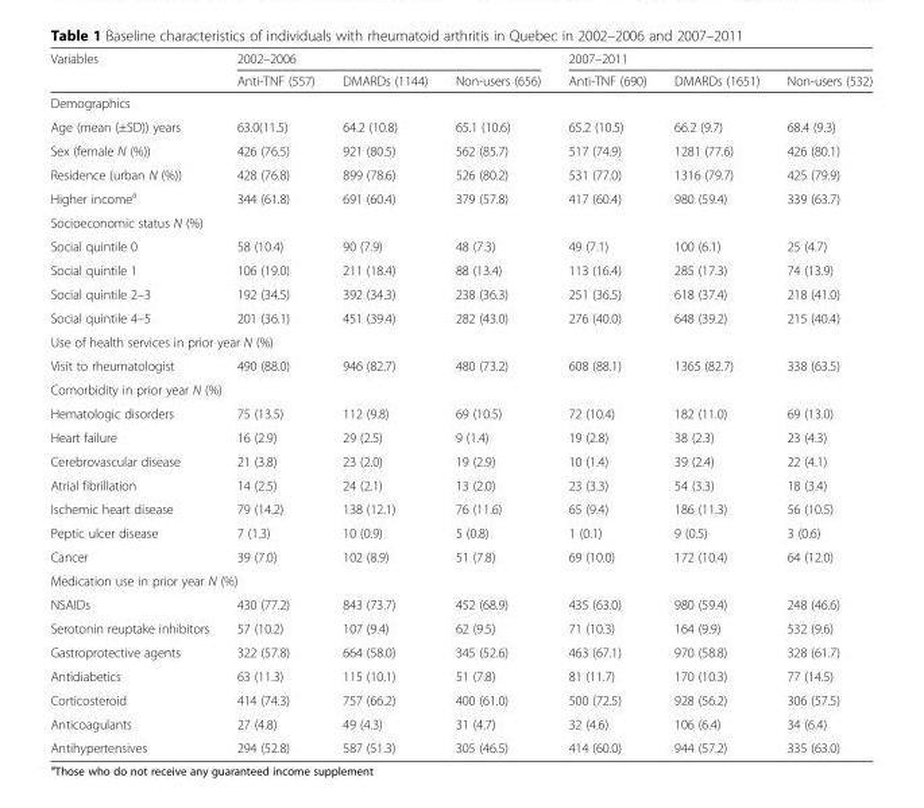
<table><thead><tr><td rowspan="2">Variables</td><td colspan="3">2002–2006</td><td colspan="3">2007–2011</td></tr><tr><td>Anti-TNF (557)</td><td>DMARDs (1144)</td><td>Non-users (656)</td><td>Anti-TNF (690)</td><td>DMARDs (1651)</td><td>Non-users (532)</td></tr></thead><tbody><tr><td colspan="7">Demographics</td></tr><tr><td>Age (mean (±SD)) years</td><td>63.0(11.5)</td><td>64.2 (10.8)</td><td>65.1 (10.6)</td><td>65.2 (10.5)</td><td>66.2 (9.7)</td><td>68.4 (9.3)</td></tr><tr><td>Sex (female N (%))</td><td>426 (76.5)</td><td>921 (80.5)</td><td>562 (85.7)</td><td>517 (74.9)</td><td>1281 (77.6)</td><td>426 (80.1)</td></tr><tr><td>Residence (urban N (%))</td><td>428 (76.8)</td><td>899 (78.6)</td><td>526 (80.2)</td><td>531 (77.0)</td><td>1316 (79.7)</td><td>425 (79.9)</td></tr><tr><td>Higher income<sup>a</sup></td><td>344 (61.8)</td><td>691 (60.4)</td><td>379 (57.8)</td><td>417 (60.4)</td><td>980 (59.4)</td><td>339 (63.7)</td></tr><tr><td colspan="7">Socioeconomic status N (%)</td></tr><tr><td>Social quintile 0</td><td>58 (10.4)</td><td>90 (7.9)</td><td>48 (7.3)</td><td>49 (7.1)</td><td>100 (6.1)</td><td>25 (4.7)</td></tr><tr><td>Social quintile 1</td><td>106 (19.0)</td><td>211 (18.4)</td><td>88 (13.4)</td><td>113 (16.4)</td><td>285 (17.3)</td><td>74 (13.9)</td></tr><tr><td>Social quintile 2–3</td><td>192 (34.5)</td><td>392 (34.3)</td><td>238 (36.3)</td><td>251 (36.5)</td><td>618 (37.4)</td><td>218 (41.0)</td></tr><tr><td>Social quintile 4–5</td><td>201 (36.1)</td><td>451 (39.4)</td><td>282 (43.0)</td><td>276 (40.0)</td><td>648 (39.2)</td><td>215 (40.4)</td></tr><tr><td colspan="7">Use of health services in prior year N (%)</td></tr><tr><td>Visit to rheumatologist</td><td>490 (88.0)</td><td>946 (82.7)</td><td>480 (73.2)</td><td>608 (88.1)</td><td>1365 (82.7)</td><td>338 (63.5)</td></tr><tr><td colspan="7">Comorbidity in prior year N (%)</td></tr><tr><td>Hematologic disorders</td><td>75 (13.5)</td><td>112 (9.8)</td><td>69 (10.5)</td><td>72 (10.4)</td><td>182 (11.0)</td><td>69 (13.0)</td></tr><tr><td>Heart failure</td><td>16 (2.9)</td><td>29 (2.5)</td><td>9 (1.4)</td><td>19 (2.8)</td><td>38 (2.3)</td><td>23 (4.3)</td></tr><tr><td>Cerebrovascular disease</td><td>21 (3.8)</td><td>23 (2.0)</td><td>19 (2.9)</td><td>10 (1.4)</td><td>39 (2.4)</td><td>22 (4.1)</td></tr><tr><td>Atrial fibrillation</td><td>14 (2.5)</td><td>24 (2.1)</td><td>13 (2.0)</td><td>23 (3.3)</td><td>54 (3.3)</td><td>18 (3.4)</td></tr><tr><td>Ischemic heart disease</td><td>79 (14.2)</td><td>138 (12.1)</td><td>76 (11.6)</td><td>65 (9.4)</td><td>186 (11.3)</td><td>56 (10.5)</td></tr><tr><td>Peptic ulcer disease</td><td>7 (1.3)</td><td>10 (0.9)</td><td>5 (0.8)</td><td>1 (0.1)</td><td>9 (0.5)</td><td>3 (0.6)</td></tr><tr><td>Cancer</td><td>39 (7.0)</td><td>102 (8.9)</td><td>51 (7.8)</td><td>69 (10.0)</td><td>172 (10.4)</td><td>64 (12.0)</td></tr><tr><td colspan="7">Medication use in prior year N (%)</td></tr><tr><td>NSAIDs</td><td>430 (77.2)</td><td>843 (73.7)</td><td>452 (68.9)</td><td>435 (63.0)</td><td>980 (59.4)</td><td>248 (46.6)</td></tr><tr><td>Serotonin reuptake inhibitors</td><td>57 (10.2)</td><td>107 (9.4)</td><td>62 (9.5)</td><td>71 (10.3)</td><td>164 (9.9)</td><td>532 (9.6)</td></tr><tr><td>Gastroprotective agents</td><td>322 (57.8)</td><td>664 (58.0)</td><td>345 (52.6)</td><td>463 (67.1)</td><td>970 (58.8)</td><td>328 (61.7)</td></tr><tr><td>Antidiabetics</td><td>63 (11.3)</td><td>115 (10.1)</td><td>51 (7.8)</td><td>81 (11.7)</td><td>170 (10.3)</td><td>77 (14.5)</td></tr><tr><td>Corticosteroid</td><td>414 (74.3)</td><td>757 (66.2)</td><td>400 (61.0)</td><td>500 (72.5)</td><td>928 (56.2)</td><td>306 (57.5)</td></tr><tr><td>Anticoagulants</td><td>27 (4.8)</td><td>49 (4.3)</td><td>31 (4.7)</td><td>32 (4.6)</td><td>106 (6.4)</td><td>34 (6.4)</td></tr><tr><td>Antihypertensives</td><td>294 (52.8)</td><td>587 (51.3)</td><td>305 (46.5)</td><td>414 (60.0)</td><td>944 (57.2)</td><td>335 (63.0)</td></tr></tbody></table>